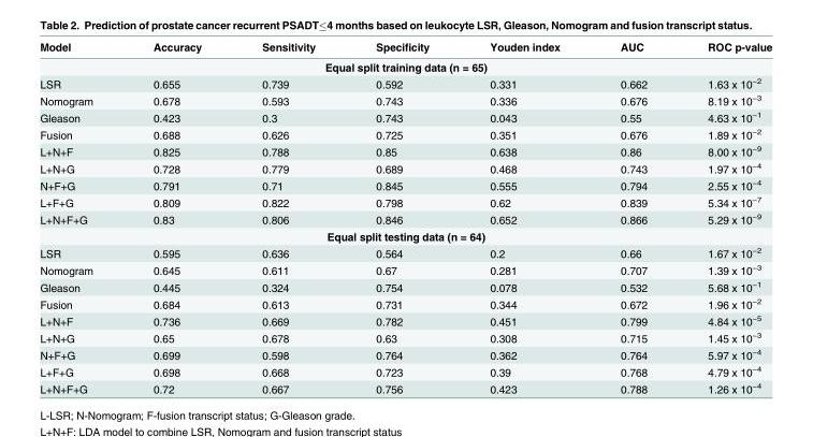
<table><thead><tr><td>Model</td><td>Accuracy</td><td>Sensitivity</td><td>Specificity</td><td>Youden index</td><td>AUC</td><td>ROC p-value</td></tr></thead><tbody><tr><td colspan="7">Equal split training data (n = 65)</td></tr><tr><td>LSR</td><td>0.655</td><td>0.739</td><td>0.592</td><td>0.331</td><td>0.662</td><td>1.63 x 10<sup>−2</sup></td></tr><tr><td>Nomogram</td><td>0.678</td><td>0.593</td><td>0.743</td><td>0.336</td><td>0.676</td><td>8.19 x 10<sup>−3</sup></td></tr><tr><td>Gleason</td><td>0.423</td><td>0.3</td><td>0.743</td><td>0.043</td><td>0.55</td><td>4.63 x 10<sup>−1</sup></td></tr><tr><td>Fusion</td><td>0.688</td><td>0.626</td><td>0.725</td><td>0.351</td><td>0.676</td><td>1.89 x 10<sup>−2</sup></td></tr><tr><td>L+N+F</td><td>0.825</td><td>0.788</td><td>0.85</td><td>0.638</td><td>0.86</td><td>8.00 x 10<sup>−9</sup></td></tr><tr><td>L+N+G</td><td>0.728</td><td>0.779</td><td>0.689</td><td>0.468</td><td>0.743</td><td>1.97 x 10<sup>−4</sup></td></tr><tr><td>N+F+G</td><td>0.791</td><td>0.71</td><td>0.845</td><td>0.555</td><td>0.794</td><td>2.55 x 10<sup>−4</sup></td></tr><tr><td>L+F+G</td><td>0.809</td><td>0.822</td><td>0.798</td><td>0.62</td><td>0.839</td><td>5.34 x 10<sup>−7</sup></td></tr><tr><td>L+N+F+G</td><td>0.83</td><td>0.806</td><td>0.846</td><td>0.652</td><td>0.866</td><td>5.29 x 10<sup>−9</sup></td></tr><tr><td colspan="7">Equal split testing data (n = 64)</td></tr><tr><td>LSR</td><td>0.595</td><td>0.636</td><td>0.564</td><td>0.2</td><td>0.66</td><td>1.67 x 10<sup>−2</sup></td></tr><tr><td>Nomogram</td><td>0.645</td><td>0.611</td><td>0.67</td><td>0.281</td><td>0.707</td><td>1.39 x 10<sup>−3</sup></td></tr><tr><td>Gleason</td><td>0.445</td><td>0.324</td><td>0.754</td><td>0.078</td><td>0.532</td><td>5.68 x 10<sup>−1</sup></td></tr><tr><td>Fusion</td><td>0.684</td><td>0.613</td><td>0.731</td><td>0.344</td><td>0.672</td><td>1.96 x 10<sup>−2</sup></td></tr><tr><td>L+N+F</td><td>0.736</td><td>0.669</td><td>0.782</td><td>0.451</td><td>0.799</td><td>4.84 x 10<sup>−5</sup></td></tr><tr><td>L+N+G</td><td>0.65</td><td>0.678</td><td>0.63</td><td>0.308</td><td>0.715</td><td>1.45 x 10<sup>−3</sup></td></tr><tr><td>N+F+G</td><td>0.699</td><td>0.598</td><td>0.764</td><td>0.362</td><td>0.764</td><td>5.97 x 10<sup>−4</sup></td></tr><tr><td>L+F+G</td><td>0.698</td><td>0.668</td><td>0.723</td><td>0.39</td><td>0.768</td><td>4.79 x 10<sup>−4</sup></td></tr><tr><td>L+N+F+G</td><td>0.72</td><td>0.667</td><td>0.756</td><td>0.423</td><td>0.788</td><td>1.26 x 10<sup>−4</sup></td></tr></tbody></table>